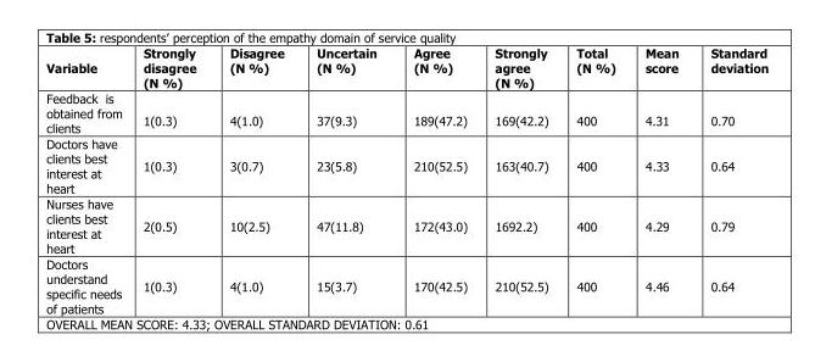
<table><thead><tr><td>Variable</td><td>Strongly disagree (N %)</td><td>Disagree (N %)</td><td>Uncertain (N %)</td><td>Agree (N %)</td><td>Strongly agree (N %)</td><td>Total (N %)</td><td>Mean score</td><td>Standard deviation</td></tr></thead><tbody><tr><td>Feedback is obtained from clients</td><td>1(0.3)</td><td>4(1.0)</td><td>37(9.3)</td><td>189(47.2)</td><td>169(42.2)</td><td>400</td><td>4.31</td><td>0.70</td></tr><tr><td>Doctors have clients best interest at heart</td><td>1(0.3)</td><td>3(0.7)</td><td>23(5.8)</td><td>210(52.5)</td><td>163(40.7)</td><td>400</td><td>4.33</td><td>0.64</td></tr><tr><td>Nurses have clients best interest at heart</td><td>2(0.5)</td><td>10(2.5)</td><td>47(11.8)</td><td>172(43.0)</td><td>1692.2)</td><td>400</td><td>4.29</td><td>0.79</td></tr><tr><td>Doctors understand specific needs of patients</td><td>1(0.3)</td><td>4(1.0)</td><td>15(3.7)</td><td>170(42.5)</td><td>210(52.5)</td><td>400</td><td>4.46</td><td>0.64</td></tr></tbody></table>